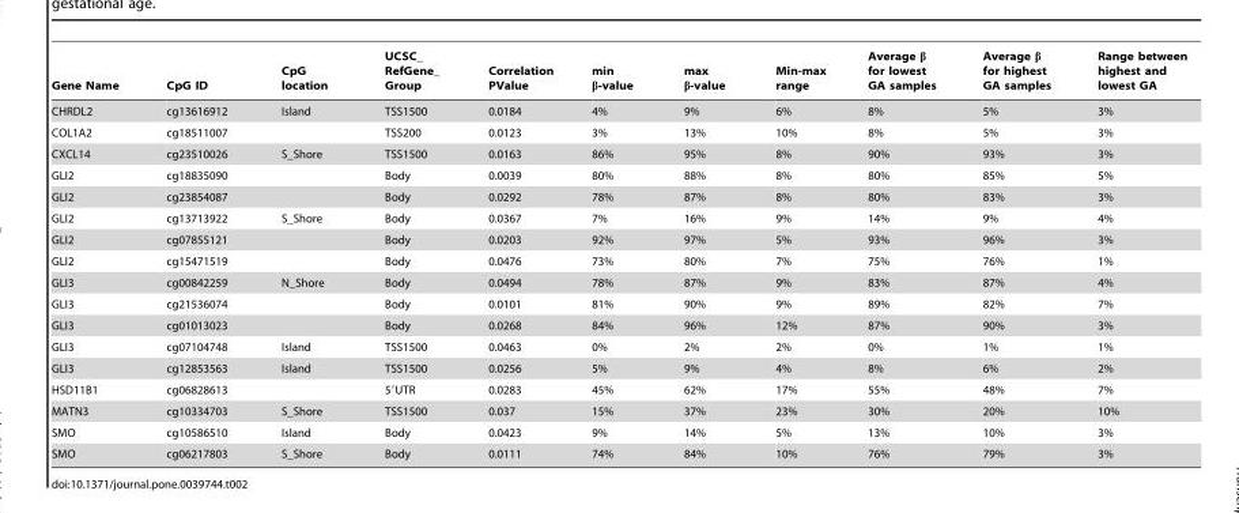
<table><thead><tr><td>Gene Name</td><td>CpG ID</td><td>CpG location</td><td>UCSC_ RefGene_ Group</td><td>Correlation PValue</td><td>min β-value</td><td>max β-value</td><td>Min-max range</td><td>Average β for lowest GA samples</td><td>Average β for highest GA samples</td><td>Range between highest and lowest GA</td></tr></thead><tbody><tr><td>CHRDL2</td><td>cg13616912</td><td>Island</td><td>TSS1500</td><td>0.0184</td><td>4%</td><td>9%</td><td>6%</td><td>8%</td><td>5%</td><td>3%</td></tr><tr><td>COL1A2</td><td>cg18511007</td><td></td><td>TSS200</td><td>0.0123</td><td>3%</td><td>13%</td><td>10%</td><td>8%</td><td>5%</td><td>3%</td></tr><tr><td>CXCL14</td><td>cg23510026</td><td>S_Shore</td><td>TSS1500</td><td>0.0163</td><td>86%</td><td>95%</td><td>8%</td><td>90%</td><td>93%</td><td>3%</td></tr><tr><td>GLI2</td><td>cg18835090</td><td></td><td>Body</td><td>0.0039</td><td>80%</td><td>88%</td><td>8%</td><td>80%</td><td>85%</td><td>5%</td></tr><tr><td>GLI2</td><td>cg23854087</td><td></td><td>Body</td><td>0.0292</td><td>78%</td><td>87%</td><td>8%</td><td>80%</td><td>83%</td><td>3%</td></tr><tr><td>GLI2</td><td>cg13713922</td><td>S_Shore</td><td>Body</td><td>0.0367</td><td>7%</td><td>16%</td><td>9%</td><td>14%</td><td>9%</td><td>4%</td></tr><tr><td>GLI2</td><td>cg07855121</td><td></td><td>Body</td><td>0.0203</td><td>92%</td><td>97%</td><td>5%</td><td>93%</td><td>96%</td><td>3%</td></tr><tr><td>GLI2</td><td>cg15471519</td><td></td><td>Body</td><td>0.0476</td><td>73%</td><td>80%</td><td>7%</td><td>75%</td><td>76%</td><td>1%</td></tr><tr><td>GLI3</td><td>cg00842259</td><td>N_Shore</td><td>Body</td><td>0.0494</td><td>78%</td><td>87%</td><td>9%</td><td>83%</td><td>87%</td><td>4%</td></tr><tr><td>GLI3</td><td>cg21536074</td><td></td><td>Body</td><td>0.0101</td><td>81%</td><td>90%</td><td>9%</td><td>89%</td><td>82%</td><td>7%</td></tr><tr><td>GLI3</td><td>cg01013023</td><td></td><td>Body</td><td>0.0268</td><td>84%</td><td>96%</td><td>12%</td><td>87%</td><td>90%</td><td>3%</td></tr><tr><td>GLI3</td><td>cg07104748</td><td>Island</td><td>TSS1500</td><td>0.0463</td><td>0%</td><td>2%</td><td>2%</td><td>0%</td><td>1%</td><td>1%</td></tr><tr><td>GLI3</td><td>cg12853563</td><td>Island</td><td>TSS1500</td><td>0.0256</td><td>5%</td><td>9%</td><td>4%</td><td>8%</td><td>6%</td><td>2%</td></tr><tr><td>HSD11B1</td><td>cg06828613</td><td></td><td>5′UTR</td><td>0.0283</td><td>45%</td><td>62%</td><td>17%</td><td>55%</td><td>48%</td><td>7%</td></tr><tr><td>MATN3</td><td>cg10334703</td><td>S_Shore</td><td>TSS1500</td><td>0.037</td><td>15%</td><td>37%</td><td>23%</td><td>30%</td><td>20%</td><td>10%</td></tr><tr><td>SMO</td><td>cg10586510</td><td>Island</td><td>Body</td><td>0.0423</td><td>9%</td><td>14%</td><td>5%</td><td>13%</td><td>10%</td><td>3%</td></tr><tr><td>SMO</td><td>cg06217803</td><td>S_Shore</td><td>Body</td><td>0.0111</td><td>74%</td><td>84%</td><td>10%</td><td>76%</td><td>79%</td><td>3%</td></tr></tbody></table>